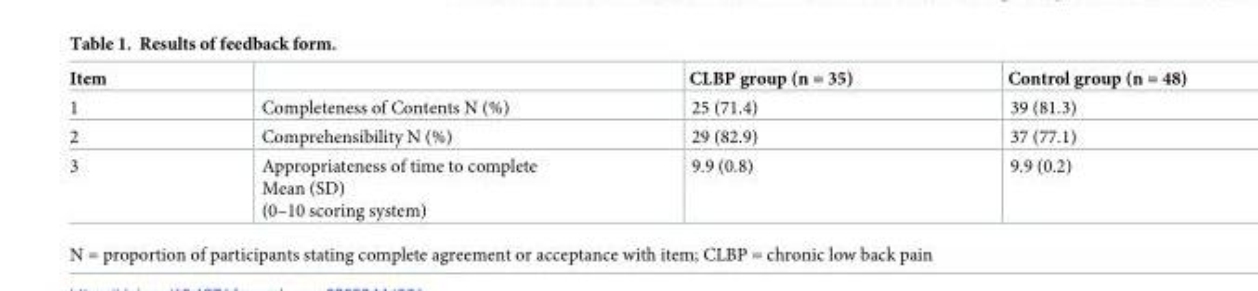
<table><thead><tr><td>Item</td><td></td><td>CLBP group (n = 35)</td><td>Control group (n = 48)</td></tr></thead><tbody><tr><td>1</td><td>Completeness of Contents N (%)</td><td>25 (71.4)</td><td>39 (81.3)</td></tr><tr><td>2</td><td>Comprehensibility N (%)</td><td>29 (82.9)</td><td>37 (77.1)</td></tr><tr><td>3</td><td>Appropriateness of time to complete Mean (SD) (0–10 scoring system)</td><td>9.9 (0.8)</td><td>9.9 (0.2)</td></tr></tbody></table>